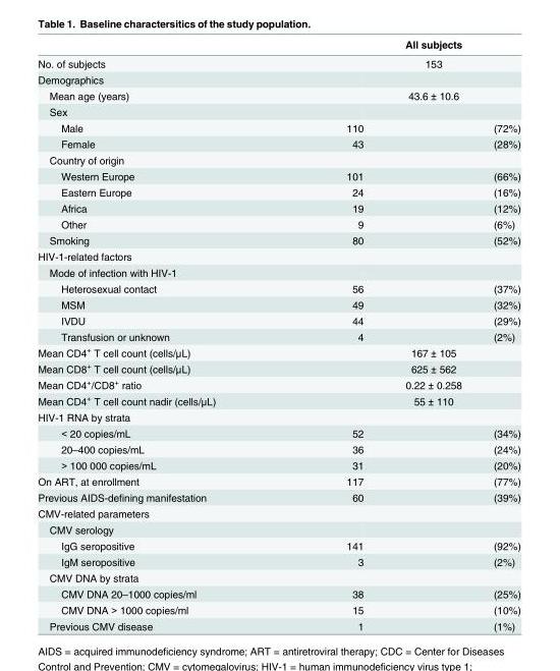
<table><thead><tr><td rowspan="3">No. of subjects Demographics</td><td rowspan="2" colspan="2">All subjects 153</td></tr><tr></tr><tr><td></td><td></td></tr></thead><tbody><tr><td>Mean age (years)</td><td colspan="2">43.6 ± 10.6</td></tr><tr><td colspan="3">Sex</td></tr><tr><td>Male</td><td>110</td><td>(72%)</td></tr><tr><td>Female</td><td>43</td><td>(28%)</td></tr><tr><td colspan="3">Country of origin</td></tr><tr><td>Western Europe</td><td>101</td><td>(66%)</td></tr><tr><td>Eastern Europe</td><td>24</td><td>(16%)</td></tr><tr><td>Africa</td><td>19</td><td>(12%)</td></tr><tr><td>Other</td><td>9</td><td>(6%)</td></tr><tr><td>Smoking</td><td>80</td><td>(52%)</td></tr><tr><td colspan="3">HIV-1-related factors</td></tr><tr><td colspan="3">Mode of infection with HIV-1</td></tr><tr><td>Heterosexual contact</td><td>56</td><td>(37%)</td></tr><tr><td>MSM</td><td>49</td><td>(32%)</td></tr><tr><td>IVDU</td><td>44</td><td>(29%)</td></tr><tr><td>Transfusion or unknown</td><td>4</td><td>(2%)</td></tr><tr><td>Mean CD4<sup>+</sup> T cell count (cells/μL)</td><td colspan="2">167 ± 105</td></tr><tr><td>Mean CD8<sup>+</sup> T cell count (cells/μL)</td><td colspan="2">625 ± 562</td></tr><tr><td>Mean CD4<sup>+</sup>/CD8<sup>+</sup> ratio</td><td colspan="2">0.22 ± 0.258</td></tr><tr><td>Mean CD4<sup>+</sup> T cell count nadir (cells/μL)</td><td colspan="2">55 ± 110</td></tr><tr><td colspan="3">HIV-1 RNA by strata</td></tr><tr><td>&lt; 20 copies/mL</td><td>52</td><td>(34%)</td></tr><tr><td>20–400 copies/mL</td><td>36</td><td>(24%)</td></tr><tr><td>&gt; 100 000 copies/mL</td><td>31</td><td>(20%)</td></tr><tr><td>On ART, at enrollment</td><td>117</td><td>(77%)</td></tr><tr><td>Previous AIDS-defining manifestation</td><td>60</td><td>(39%)</td></tr><tr><td colspan="3">CMV-related parameters</td></tr><tr><td colspan="3">CMV serology</td></tr><tr><td>IgG seropositive</td><td>141</td><td>(92%)</td></tr><tr><td>IgM seropositive</td><td>3</td><td>(2%)</td></tr><tr><td colspan="3">CMV DNA by strata</td></tr><tr><td>CMV DNA 20–1000 copies/ml</td><td>38</td><td>(25%)</td></tr><tr><td>CMV DNA &gt; 1000 copies/ml</td><td>15</td><td>(10%)</td></tr><tr><td>Previous CMV disease</td><td>1</td><td>(1%)</td></tr></tbody></table>